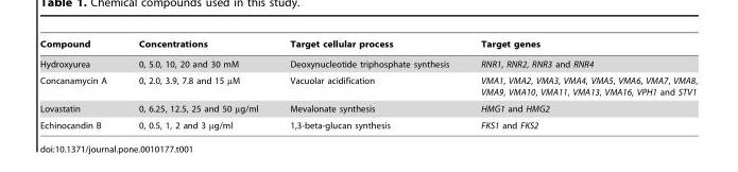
<table><thead><tr><td>Compound</td><td>Concentrations</td><td>Target cellular process</td><td>Target genes</td></tr></thead><tbody><tr><td>Hydroxyurea</td><td>0, 5.0, 10, 20 and 30 mM</td><td>Deoxynucleotide triphosphate synthesis</td><td>RNR1, RNR2, RNR3 and RNR4</td></tr><tr><td>Concanamycin A</td><td>0, 2.0, 3.9, 7.8 and 15 µM</td><td>Vacuolar acidification</td><td>VMA1, VMA2, VMA3, VMA4, VMA5, VMA6, VMA7, VMA8, VMA9, VMA10, VMA11, VMA13, VMA16, VPH1 and STV1</td></tr><tr><td>Lovastatin</td><td>0, 6.25, 12.5, 25 and 50 µg/ml</td><td>Mevalonate synthesis</td><td>HMG1 and HMG2</td></tr><tr><td>Echinocandin B</td><td>0, 0.5, 1, 2 and 3 µg/ml</td><td>1,3-beta-glucan synthesis</td><td>FKS1 and FKS2</td></tr></tbody></table>